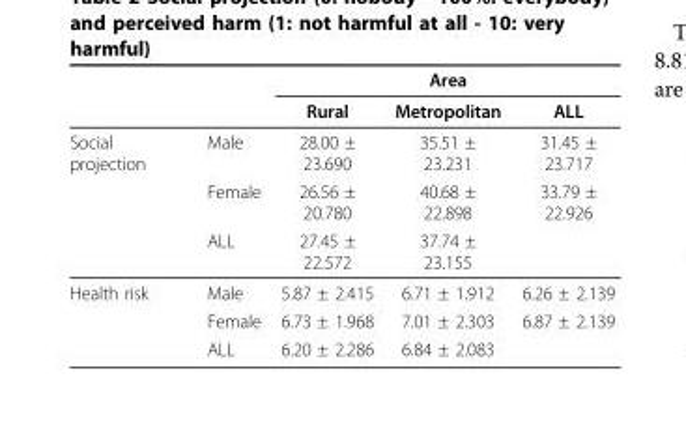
<table><thead><tr><td rowspan="2"></td><td rowspan="2"></td><td colspan="3">Area</td></tr><tr><td>Rural</td><td>Metropolitan</td><td>ALL</td></tr></thead><tbody><tr><td rowspan="3">Social projection</td><td>Male</td><td>28.00 ± 23.690</td><td>35.51 ± 23.231</td><td>31.45 ± 23.717</td></tr><tr><td>Female</td><td>26.56 ± 20.780</td><td>40.68 ± 22.898</td><td>33.79 ± 22.926</td></tr><tr><td>ALL</td><td>27.45 ± 22.572</td><td>37.74 ± 23.155</td><td></td></tr><tr><td rowspan="3">Health risk</td><td>Male</td><td>5.87 ± 2.415</td><td>6.71 ± 1.912</td><td>6.26 ± 2.139</td></tr><tr><td>Female</td><td>6.73 ± 1.968</td><td>7.01 ± 2.303</td><td>6.87 ± 2.139</td></tr><tr><td>ALL</td><td>6.20 ± 2.286</td><td>6.84 ± 2.083</td><td></td></tr></tbody></table>